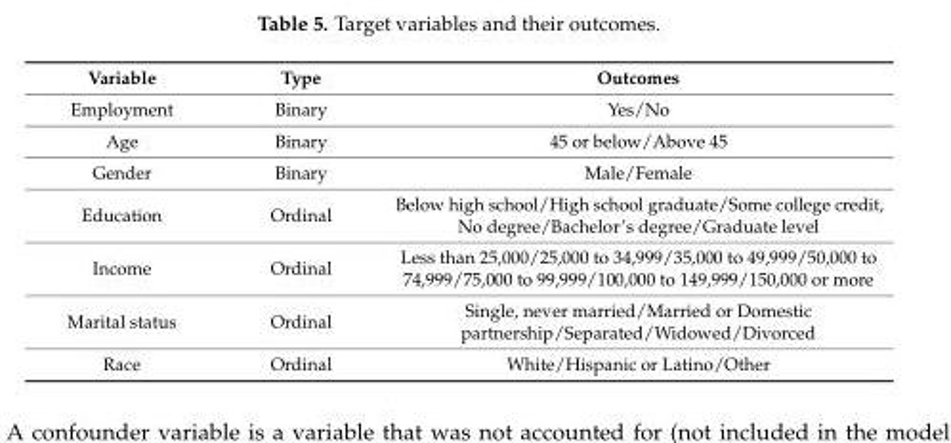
<table><thead><tr><td>Variable</td><td>Type</td><td>Outcomes</td></tr></thead><tbody><tr><td>Employment</td><td>Binary</td><td>Yes/No</td></tr><tr><td>Age</td><td>Binary</td><td>45 or below/Above 45</td></tr><tr><td>Gender</td><td>Binary</td><td>Male/Female</td></tr><tr><td>Education</td><td>Ordinal</td><td>Below high school/High school graduate/Some college credit, No degree/Bachelor’s degree/Graduate level</td></tr><tr><td>Income</td><td>Ordinal</td><td>Less than 25,000/25,000 to 34,999/35,000 to 49,999/50,000 to 74,999/75,000 to 99,999/100,000 to 149,999/150,000 or more</td></tr><tr><td>Marital status</td><td>Ordinal</td><td>Single, never married/Married or Domestic partnership/Separated/Widowed/Divorced</td></tr><tr><td>Race</td><td>Ordinal</td><td>White/Hispanic or Latino/Other</td></tr></tbody></table>